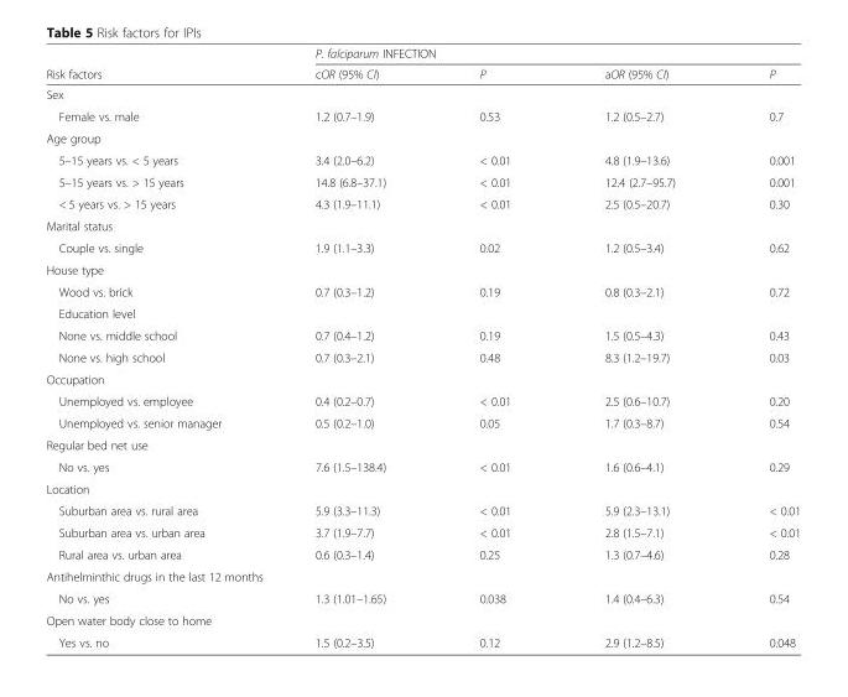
<table><thead><tr><td rowspan="2">Risk factors</td><td colspan="4">P. falciparum INFECTION</td></tr><tr><td>cOR (95% CI)</td><td>P</td><td>aOR (95% CI)</td><td>P</td></tr></thead><tbody><tr><td colspan="5">Sex</td></tr><tr><td>Female vs. male</td><td>1.2 (0.7–1.9)</td><td>0.53</td><td>1.2 (0.5–2.7)</td><td>0.7</td></tr><tr><td colspan="5">Age group</td></tr><tr><td>5–15 years vs. &lt; 5 years</td><td>3.4 (2.0–6.2)</td><td>&lt; 0.01</td><td>4.8 (1.9–13.6)</td><td>0.001</td></tr><tr><td>5–15 years vs. &gt; 15 years</td><td>14.8 (6.8–37.1)</td><td>&lt; 0.01</td><td>12.4 (2.7–95.7)</td><td>0.001</td></tr><tr><td>&lt; 5 years vs. &gt; 15 years</td><td>4.3 (1.9–11.1)</td><td>&lt; 0.01</td><td>2.5 (0.5–20.7)</td><td>0.30</td></tr><tr><td colspan="5">Marital status</td></tr><tr><td>Couple vs. single</td><td>1.9 (1.1–3.3)</td><td>0.02</td><td>1.2 (0.5–3.4)</td><td>0.62</td></tr><tr><td colspan="5">House type</td></tr><tr><td>Wood vs. brick</td><td>0.7 (0.3–1.2)</td><td>0.19</td><td>0.8 (0.3–2.1)</td><td>0.72</td></tr><tr><td colspan="5">Education level</td></tr><tr><td>None vs. middle school</td><td>0.7 (0.4–1.2)</td><td>0.19</td><td>1.5 (0.5–4.3)</td><td>0.43</td></tr><tr><td>None vs. high school</td><td>0.7 (0.3–2.1)</td><td>0.48</td><td>8.3 (1.2–19.7)</td><td>0.03</td></tr><tr><td colspan="5">Occupation</td></tr><tr><td>Unemployed vs. employee</td><td>0.4 (0.2–0.7)</td><td>&lt; 0.01</td><td>2.5 (0.6–10.7)</td><td>0.20</td></tr><tr><td>Unemployed vs. senior manager</td><td>0.5 (0.2–1.0)</td><td>0.05</td><td>1.7 (0.3–8.7)</td><td>0.54</td></tr><tr><td colspan="5">Regular bed net use</td></tr><tr><td>No vs. yes</td><td>7.6 (1.5–138.4)</td><td>&lt; 0.01</td><td>1.6 (0.6–4.1)</td><td>0.29</td></tr><tr><td colspan="5">Location</td></tr><tr><td>Suburban area vs. rural area</td><td>5.9 (3.3–11.3)</td><td>&lt; 0.01</td><td>5.9 (2.3–13.1)</td><td>&lt; 0.01</td></tr><tr><td>Suburban area vs. urban area</td><td>3.7 (1.9–7.7)</td><td>&lt; 0.01</td><td>2.8 (1.5–7.1)</td><td>&lt; 0.01</td></tr><tr><td>Rural area vs. urban area</td><td>0.6 (0.3–1.4)</td><td>0.25</td><td>1.3 (0.7–4.6)</td><td>0.28</td></tr><tr><td colspan="5">Antihelminthic drugs in the last 12 months</td></tr><tr><td>No vs. yes</td><td>1.3 (1.01–1.65)</td><td>0.038</td><td>1.4 (0.4–6.3)</td><td>0.54</td></tr><tr><td colspan="5">Open water body close to home</td></tr><tr><td>Yes vs. no</td><td>1.5 (0.2–3.5)</td><td>0.12</td><td>2.9 (1.2–8.5)</td><td>0.048</td></tr></tbody></table>